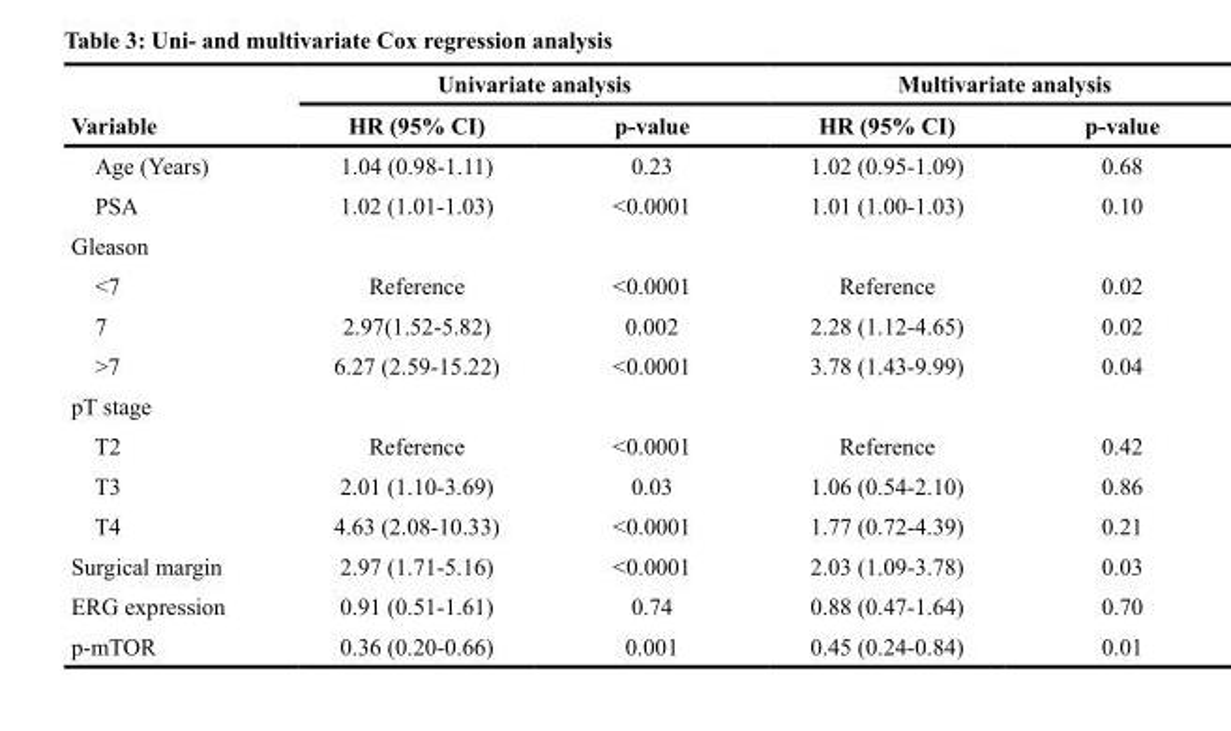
<table><thead><tr><td rowspan="2">Variable</td><td colspan="2">Univariate analysis</td><td colspan="2">Multivariate analysis</td></tr><tr><td>HR (95% CI)</td><td>p-value</td><td>HR (95% CI)</td><td>p-value</td></tr></thead><tbody><tr><td>Age (Years)</td><td>1.04 (0.98-1.11)</td><td>0.23</td><td>1.02 (0.95-1.09)</td><td>0.68</td></tr><tr><td>PSA</td><td>1.02 (1.01-1.03)</td><td>&lt;0.0001</td><td>1.01 (1.00-1.03)</td><td>0.10</td></tr><tr><td colspan="5">Gleason</td></tr><tr><td>&lt;7</td><td>Reference</td><td>&lt;0.0001</td><td>Reference</td><td>0.02</td></tr><tr><td>7</td><td>2.97(1.52-5.82)</td><td>0.002</td><td>2.28 (1.12-4.65)</td><td>0.02</td></tr><tr><td>&gt;7</td><td>6.27 (2.59-15.22)</td><td>&lt;0.0001</td><td>3.78 (1.43-9.99)</td><td>0.04</td></tr><tr><td colspan="5">pT stage</td></tr><tr><td>T2</td><td>Reference</td><td>&lt;0.0001</td><td>Reference</td><td>0.42</td></tr><tr><td>T3</td><td>2.01 (1.10-3.69)</td><td>0.03</td><td>1.06 (0.54-2.10)</td><td>0.86</td></tr><tr><td>T4</td><td>4.63 (2.08-10.33)</td><td>&lt;0.0001</td><td>1.77 (0.72-4.39)</td><td>0.21</td></tr><tr><td>Surgical margin</td><td>2.97 (1.71-5.16)</td><td>&lt;0.0001</td><td>2.03 (1.09-3.78)</td><td>0.03</td></tr><tr><td>ERG expression</td><td>0.91 (0.51-1.61)</td><td>0.74</td><td>0.88 (0.47-1.64)</td><td>0.70</td></tr><tr><td>p-mTOR</td><td>0.36 (0.20-0.66)</td><td>0.001</td><td>0.45 (0.24-0.84)</td><td>0.01</td></tr></tbody></table>